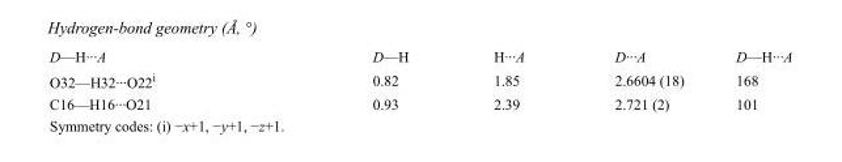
<table><tbody><tr><td>D—H···A</td><td>D—H</td><td>H···A</td><td>D···A</td><td>D—H···A</td></tr><tr><td>O32—H32···O22<sup>i</sup></td><td>0.82</td><td>1.85</td><td>2.6604 (18)</td><td>168</td></tr><tr><td>C16—H16···O21</td><td>0.93</td><td>2.39</td><td>2.721 (2)</td><td>101</td></tr></tbody></table>